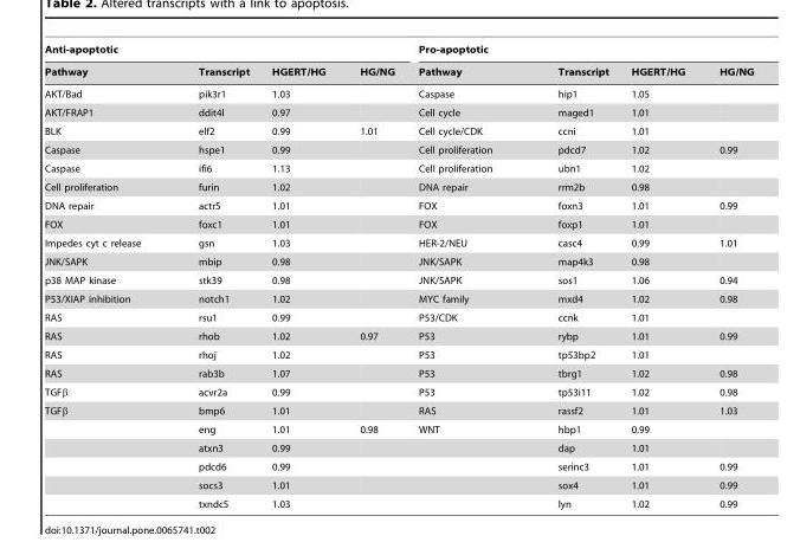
<table><thead><tr><td colspan="4">Anti-apoptotic</td><td colspan="4">Pro-apoptotic</td></tr><tr><td>Pathway</td><td>Transcript</td><td>HGERT/HG</td><td>HG/NG</td><td>Pathway</td><td>Transcript</td><td>HGERT/HG</td><td>HG/NG</td></tr></thead><tbody><tr><td>AKT/Bad</td><td>pik3r1</td><td>1.03</td><td></td><td>Caspase</td><td>hip1</td><td>1.05</td><td></td></tr><tr><td>AKT/FRAP1</td><td>ddit4l</td><td>0.97</td><td></td><td>Cell cycle</td><td>maged1</td><td>1.01</td><td></td></tr><tr><td>BLK</td><td>elf2</td><td>0.99</td><td>1.01</td><td>Cell cycle/CDK</td><td>ccni</td><td>1.01</td><td></td></tr><tr><td>Caspase</td><td>hspe1</td><td>0.99</td><td></td><td>Cell proliferation</td><td>pdcd7</td><td>1.02</td><td>0.99</td></tr><tr><td>Caspase</td><td>ifi6</td><td>1.13</td><td></td><td>Cell proliferation</td><td>ubn1</td><td>1.02</td><td></td></tr><tr><td>Cell proliferation</td><td>furin</td><td>1.02</td><td></td><td>DNA repair</td><td>rrm2b</td><td>0.98</td><td></td></tr><tr><td>DNA repair</td><td>actr5</td><td>1.01</td><td></td><td>FOX</td><td>foxn3</td><td>1.01</td><td>0.99</td></tr><tr><td>FOX</td><td>foxc1</td><td>1.01</td><td></td><td>FOX</td><td>foxp1</td><td>1.01</td><td></td></tr><tr><td>Impedes cyt c release</td><td>gsn</td><td>1.03</td><td></td><td>HER-2/NEU</td><td>casc4</td><td>0.99</td><td>1.01</td></tr><tr><td>JNK/SAPK</td><td>mbip</td><td>0.98</td><td></td><td>JNK/SAPK</td><td>map4k3</td><td>0.98</td><td></td></tr><tr><td>p38 MAP kinase</td><td>stk39</td><td>0.98</td><td></td><td>JNK/SAPK</td><td>sos1</td><td>1.06</td><td>0.94</td></tr><tr><td>P53/XIAP inhibition</td><td>notch1</td><td>1.02</td><td></td><td>MYC family</td><td>mxd4</td><td>1.02</td><td>0.98</td></tr><tr><td>RAS</td><td>rsu1</td><td>0.99</td><td></td><td>P53/CDK</td><td>ccnk</td><td>1.01</td><td></td></tr><tr><td>RAS</td><td>rhob</td><td>1.02</td><td>0.97</td><td>P53</td><td>rybp</td><td>1.01</td><td>0.99</td></tr><tr><td>RAS</td><td>rhoj</td><td>1.02</td><td></td><td>P53</td><td>tp53bp2</td><td>1.01</td><td></td></tr><tr><td>RAS</td><td>rab3b</td><td>1.07</td><td></td><td>P53</td><td>tbrg1</td><td>1.02</td><td>0.98</td></tr><tr><td>TGFβ</td><td>acvr2a</td><td>0.99</td><td></td><td>P53</td><td>tp53i11</td><td>1.02</td><td>0.98</td></tr><tr><td rowspan="6">TGFβ</td><td>bmp6</td><td>1.01</td><td></td><td>RAS</td><td>rassf2</td><td>1.01</td><td>1.03</td></tr><tr><td>eng</td><td>1.01</td><td>0.98</td><td>WNT</td><td>hbp1</td><td>0.99</td><td></td></tr><tr><td>atxn3</td><td>0.99</td><td></td><td></td><td>dap</td><td>1.01</td><td></td></tr><tr><td>pdcd6</td><td>0.99</td><td></td><td></td><td>serinc3</td><td>1.01</td><td>0.99</td></tr><tr><td>socs3</td><td>1.01</td><td></td><td></td><td>sox4</td><td>1.01</td><td>0.99</td></tr><tr><td>txndc5</td><td>1.03</td><td></td><td></td><td>lyn</td><td>1.02</td><td>0.99</td></tr></tbody></table>